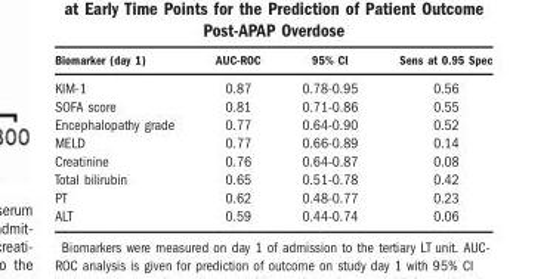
<table><thead><tr><td>Biomarker (day 1)</td><td>AUC-ROC</td><td>95% CI</td><td>Sens at 0.95 Spec</td></tr></thead><tbody><tr><td>KIM-1</td><td>0.87</td><td>0.78-0.95</td><td>0.56</td></tr><tr><td>SOFA score</td><td>0.81</td><td>0.71-0.86</td><td>0.55</td></tr><tr><td>Encephalopathy grade</td><td>0.77</td><td>0.64-0.90</td><td>0.52</td></tr><tr><td>MELD</td><td>0.77</td><td>0.66-0.89</td><td>0.14</td></tr><tr><td>Creatinine</td><td>0.76</td><td>0.64-0.87</td><td>0.08</td></tr><tr><td>Total bilirubin</td><td>0.65</td><td>0.51-0.78</td><td>0.42</td></tr><tr><td>PT</td><td>0.62</td><td>0.48-0.77</td><td>0.23</td></tr><tr><td>ALT</td><td>0.59</td><td>0.44-0.74</td><td>0.06</td></tr></tbody></table>